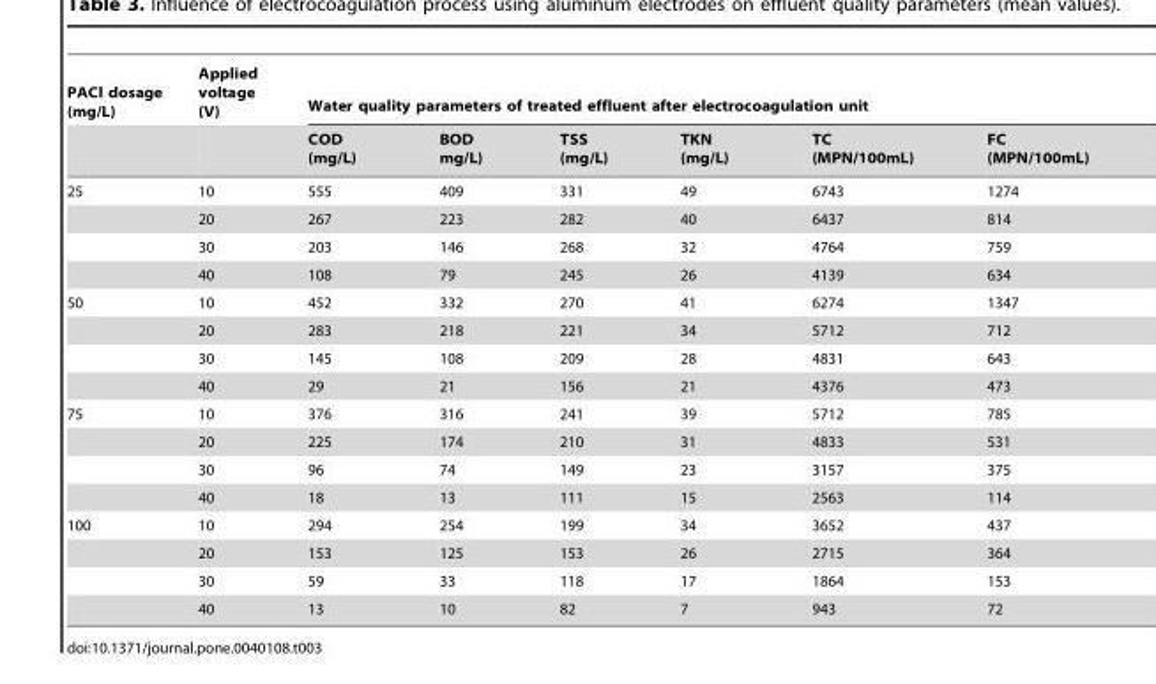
<table><thead><tr><td rowspan="2">PACl dosage (mg/L)</td><td rowspan="2">Applied voltage (V)</td><td colspan="6">Water quality parameters of treated effluent after electrocoagulation unit</td></tr><tr><td>COD (mg/L)</td><td>BOD mg/L)</td><td>TSS (mg/L)</td><td>TKN (mg/L)</td><td>TC (MPN/100mL)</td><td>FC (MPN/100mL)</td></tr></thead><tbody><tr><td rowspan="4">25</td><td>10</td><td>555</td><td>409</td><td>331</td><td>49</td><td>6743</td><td>1274</td></tr><tr><td>20</td><td>267</td><td>223</td><td>282</td><td>40</td><td>6437</td><td>814</td></tr><tr><td>30</td><td>203</td><td>146</td><td>268</td><td>32</td><td>4764</td><td>759</td></tr><tr><td>40</td><td>108</td><td>79</td><td>245</td><td>26</td><td>4139</td><td>634</td></tr><tr><td rowspan="4">50</td><td>10</td><td>452</td><td>332</td><td>270</td><td>41</td><td>6274</td><td>1347</td></tr><tr><td>20</td><td>283</td><td>218</td><td>221</td><td>34</td><td>5712</td><td>712</td></tr><tr><td>30</td><td>145</td><td>108</td><td>209</td><td>28</td><td>4831</td><td>643</td></tr><tr><td>40</td><td>29</td><td>21</td><td>156</td><td>21</td><td>4376</td><td>473</td></tr><tr><td rowspan="4">75</td><td>10</td><td>376</td><td>316</td><td>241</td><td>39</td><td>5712</td><td>785</td></tr><tr><td>20</td><td>225</td><td>174</td><td>210</td><td>31</td><td>4833</td><td>531</td></tr><tr><td>30</td><td>96</td><td>74</td><td>149</td><td>23</td><td>3157</td><td>375</td></tr><tr><td>40</td><td>18</td><td>13</td><td>111</td><td>15</td><td>2563</td><td>114</td></tr><tr><td rowspan="4">100</td><td>10</td><td>294</td><td>254</td><td>199</td><td>34</td><td>3652</td><td>437</td></tr><tr><td>20</td><td>153</td><td>125</td><td>153</td><td>26</td><td>2715</td><td>364</td></tr><tr><td>30</td><td>59</td><td>33</td><td>118</td><td>17</td><td>1864</td><td>153</td></tr><tr><td>40</td><td>13</td><td>10</td><td>82</td><td>7</td><td>943</td><td>72</td></tr></tbody></table>